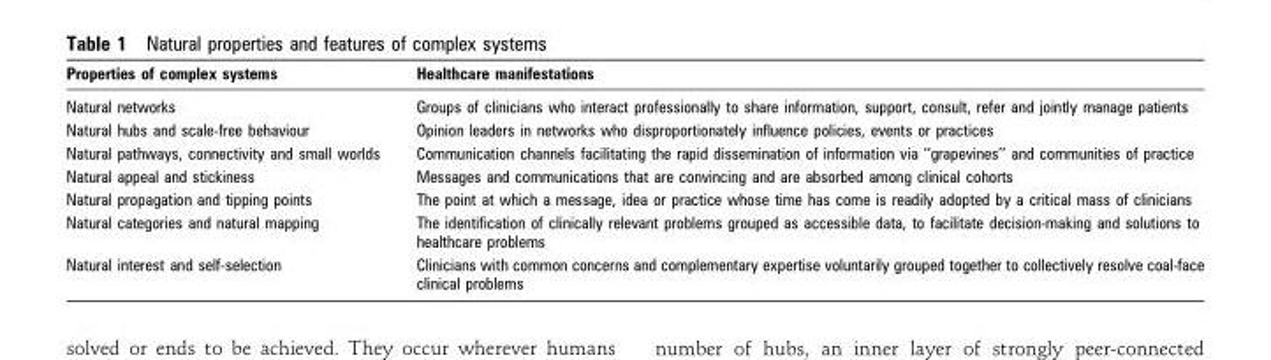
<table><thead><tr><td>Properties of complex systems</td><td>Healthcare manifestations</td></tr></thead><tbody><tr><td>Natural networks</td><td>Groups of clinicians who interact professionally to share information, support, consult, refer and jointly manage patients</td></tr><tr><td>Natural hubs and scale-free behaviour</td><td>Opinion leaders in networks who disproportionately influence policies, events or practices</td></tr><tr><td>Natural pathways, connectivity and small worlds</td><td>Communication channels facilitating the rapid dissemination of information via ‘‘grapevines’’ and communities of practice</td></tr><tr><td>Natural appeal and stickiness</td><td>Messages and communications that are convincing and are absorbed among clinical cohorts</td></tr><tr><td>Natural propagation and tipping points</td><td>The point at which a message, idea or practice whose time has come is readily adopted by a critical mass of clinicians</td></tr><tr><td>Natural categories and natural mapping</td><td>The identification of clinically relevant problems grouped as accessible data, to facilitate decision-making and solutions to healthcare problems</td></tr><tr><td>Natural interest and self-selection</td><td>Clinicians with common concerns and complementary expertise voluntarily grouped together to collectively resolve coal-face clinical problems</td></tr></tbody></table>